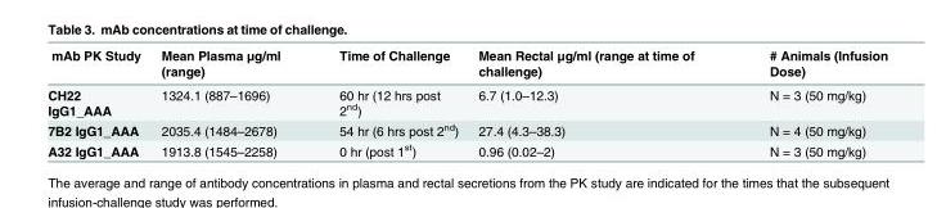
<table><thead><tr><td>mAb PK Study</td><td>Mean Plasma μg/ml (range)</td><td>Time of Challenge</td><td>Mean Rectal μg/ml (range at time of challenge)</td><td># Animals (Infusion Dose)</td></tr></thead><tbody><tr><td>CH22 IgG1_AAA</td><td>1324.1 (887–1696)</td><td>60 hr (12 hrs post 2<sup>nd</sup>)</td><td>6.7 (1.0–12.3)</td><td>N = 3 (50 mg/kg)</td></tr><tr><td>7B2 IgG1_AAA</td><td>2035.4 (1484–2678)</td><td>54 hr (6 hrs post 2<sup>nd</sup>)</td><td>27.4 (4.3–38.3)</td><td>N = 4 (50 mg/kg)</td></tr><tr><td>A32 IgG1_AAA</td><td>1913.8 (1545–2258)</td><td>0 hr (post 1<sup>st</sup>)</td><td>0.96 (0.02–2)</td><td>N = 3 (50 mg/kg)</td></tr></tbody></table>